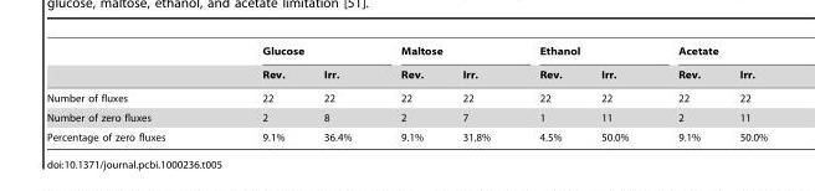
<table><thead><tr><td rowspan="2"></td><td colspan="2">Glucose</td><td colspan="2">Maltose</td><td colspan="2">Ethanol</td><td colspan="2">Acetate</td></tr><tr><td>Rev.</td><td>Irr.</td><td>Rev.</td><td>Irr.</td><td>Rev.</td><td>Irr.</td><td>Rev.</td><td>Irr.</td></tr></thead><tbody><tr><td>Number of fluxes</td><td>22</td><td>22</td><td>22</td><td>22</td><td>22</td><td>22</td><td>22</td><td>22</td></tr><tr><td>Number of zero fluxes</td><td>2</td><td>8</td><td>2</td><td>7</td><td>1</td><td>11</td><td>2</td><td>11</td></tr><tr><td>Percentage of zero fluxes</td><td>9.1%</td><td>36.4%</td><td>9.1%</td><td>31.8%</td><td>4.5%</td><td>50.0%</td><td>9.1%</td><td>50.0%</td></tr></tbody></table>